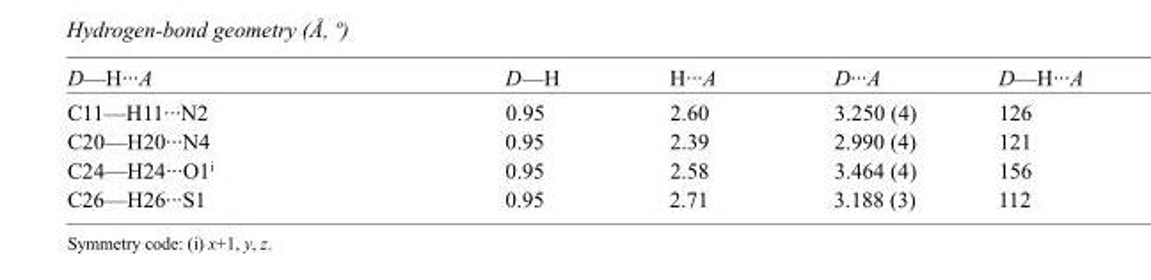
<table><tbody><tr><td>D—H···A</td><td>D—H</td><td>H···A</td><td>D···A</td><td>D—H···A</td></tr><tr><td>C11—H11···N2</td><td>0.95</td><td>2.60</td><td>3.250 (4)</td><td>126</td></tr><tr><td>C20—H20···N4</td><td>0.95</td><td>2.39</td><td>2.990 (4)</td><td>121</td></tr><tr><td>C24—H24···O1<sup>i</sup></td><td>0.95</td><td>2.58</td><td>3.464 (4)</td><td>156</td></tr><tr><td>C26—H26···S1</td><td>0.95</td><td>2.71</td><td>3.188 (3)</td><td>112</td></tr></tbody></table>